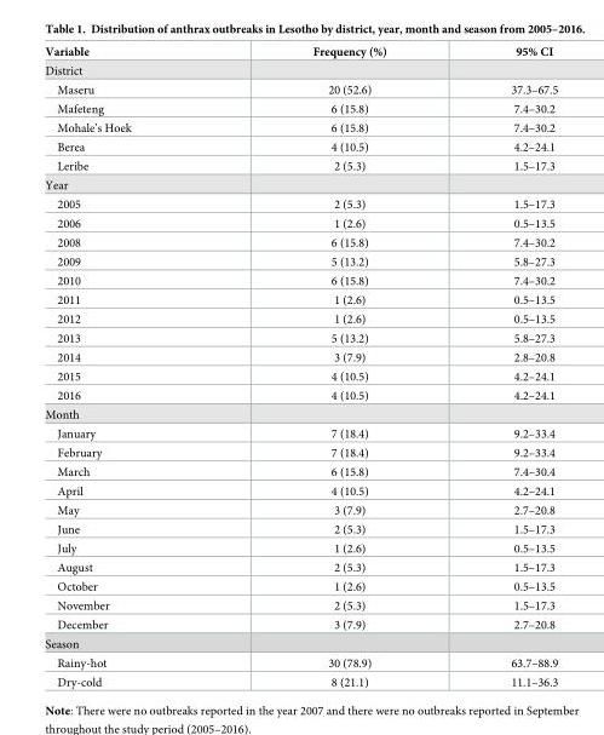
<table><thead><tr><td>Variable</td><td>Frequency (%)</td><td>95% CI</td></tr></thead><tbody><tr><td colspan="3">District</td></tr><tr><td>Maseru</td><td>20 (52.6)</td><td>37.3–67.5</td></tr><tr><td>Mafeteng</td><td>6 (15.8)</td><td>7.4–30.2</td></tr><tr><td>Mohale’s Hoek</td><td>6 (15.8)</td><td>7.4–30.2</td></tr><tr><td>Berea</td><td>4 (10.5)</td><td>4.2–24.1</td></tr><tr><td>Leribe</td><td>2 (5.3)</td><td>1.5–17.3</td></tr><tr><td colspan="3">Year</td></tr><tr><td>2005</td><td>2 (5.3)</td><td>1.5–17.3</td></tr><tr><td>2006</td><td>1 (2.6)</td><td>0.5–13.5</td></tr><tr><td>2008</td><td>6 (15.8)</td><td>7.4–30.2</td></tr><tr><td>2009</td><td>5 (13.2)</td><td>5.8–27.3</td></tr><tr><td>2010</td><td>6 (15.8)</td><td>7.4–30.2</td></tr><tr><td>2011</td><td>1 (2.6)</td><td>0.5–13.5</td></tr><tr><td>2012</td><td>1 (2.6)</td><td>0.5–13.5</td></tr><tr><td>2013</td><td>5 (13.2)</td><td>5.8–27.3</td></tr><tr><td>2014</td><td>3 (7.9)</td><td>2.8–20.8</td></tr><tr><td>2015</td><td>4 (10.5)</td><td>4.2–24.1</td></tr><tr><td>2016</td><td>4 (10.5)</td><td>4.2–24.1</td></tr><tr><td colspan="3">Month</td></tr><tr><td>January</td><td>7 (18.4)</td><td>9.2–33.4</td></tr><tr><td>February</td><td>7 (18.4)</td><td>9.2–33.4</td></tr><tr><td>March</td><td>6 (15.8)</td><td>7.4–30.4</td></tr><tr><td>April</td><td>4 (10.5)</td><td>4.2–24.1</td></tr><tr><td>May</td><td>3 (7.9)</td><td>2.7–20.8</td></tr><tr><td>June</td><td>2 (5.3)</td><td>1.5–17.3</td></tr><tr><td>July</td><td>1 (2.6)</td><td>0.5–13.5</td></tr><tr><td>August</td><td>2 (5.3)</td><td>1.5–17.3</td></tr><tr><td>October</td><td>1 (2.6)</td><td>0.5–13.5</td></tr><tr><td>November</td><td>2 (5.3)</td><td>1.5–17.3</td></tr><tr><td>December</td><td>3 (7.9)</td><td>2.7–20.8</td></tr><tr><td colspan="3">Season</td></tr><tr><td>Rainy-hot</td><td>30 (78.9)</td><td>63.7–88.9</td></tr><tr><td>Dry-cold</td><td>8 (21.1)</td><td>11.1–36.3</td></tr></tbody></table>